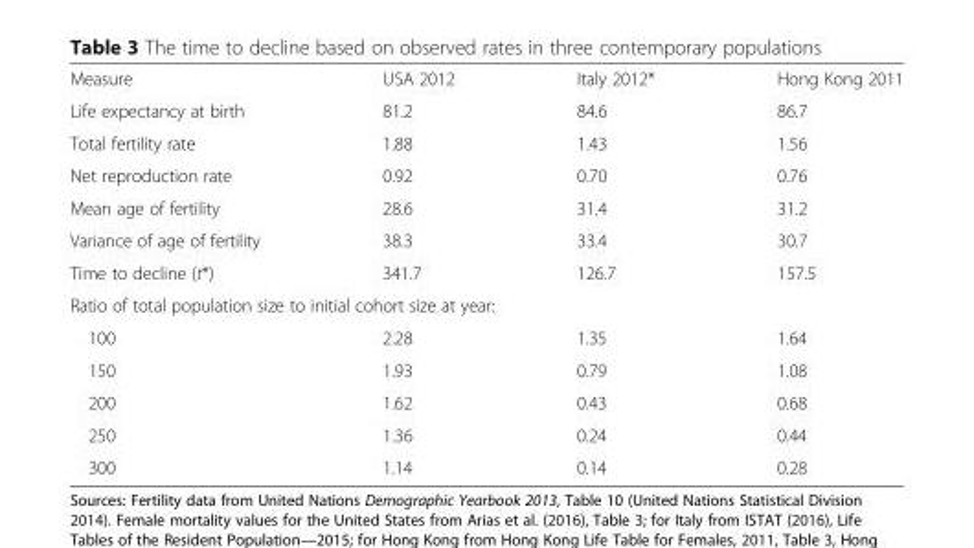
<table><tbody><tr><td>Measure</td><td>USA 2012</td><td>Italy 2012*</td><td>Hong Kong 2011</td></tr><tr><td>Life expectancy at birth</td><td>81.2</td><td>84.6</td><td>86.7</td></tr><tr><td>Total fertility rate</td><td>1.88</td><td>1.43</td><td>1.56</td></tr><tr><td>Net reproduction rate</td><td>0.92</td><td>0.70</td><td>0.76</td></tr><tr><td>Mean age of fertility</td><td>28.6</td><td>31.4</td><td>31.2</td></tr><tr><td>Variance of age of fertility</td><td>38.3</td><td>33.4</td><td>30.7</td></tr><tr><td>Time to decline (t*)</td><td>341.7</td><td>126.7</td><td>157.5</td></tr><tr><td colspan="4">Ratio of total population size to initial cohort size at year:</td></tr><tr><td>100</td><td>2.28</td><td>1.35</td><td>1.64</td></tr><tr><td>150</td><td>1.93</td><td>0.79</td><td>1.08</td></tr><tr><td>200</td><td>1.62</td><td>0.43</td><td>0.68</td></tr><tr><td>250</td><td>1.36</td><td>0.24</td><td>0.44</td></tr><tr><td>300</td><td>1.14</td><td>0.14</td><td>0.28</td></tr></tbody></table>